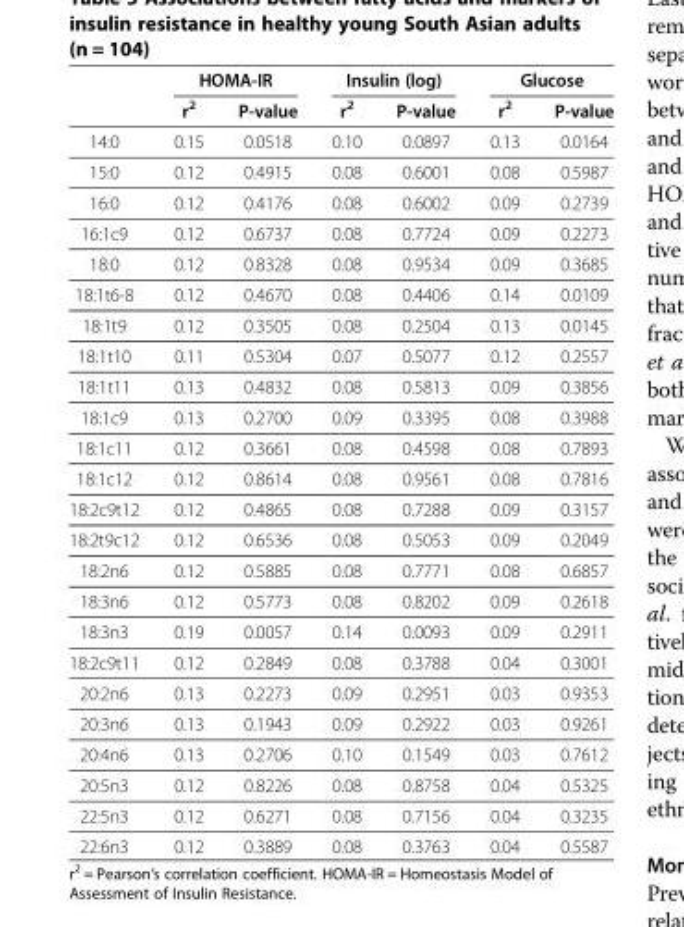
<table><thead><tr><td rowspan="2"></td><td colspan="2">HOMA-IR</td><td colspan="2">Insulin (log)</td><td colspan="2">Glucose</td></tr><tr><td>r<sup>2</sup></td><td>P-value</td><td>r<sup>2</sup></td><td>P-value</td><td>r<sup>2</sup></td><td>P-value</td></tr></thead><tbody><tr><td>14:0</td><td>0.15</td><td>0.0518</td><td>0.10</td><td>0.0897</td><td>0.13</td><td>0.0164</td></tr><tr><td>15:0</td><td>0.12</td><td>0.4915</td><td>0.08</td><td>0.6001</td><td>0.08</td><td>0.5987</td></tr><tr><td>16:0</td><td>0.12</td><td>0.4176</td><td>0.08</td><td>0.6002</td><td>0.09</td><td>0.2739</td></tr><tr><td>16:1c9</td><td>0.12</td><td>0.6737</td><td>0.08</td><td>0.7724</td><td>0.09</td><td>0.2273</td></tr><tr><td>18:0</td><td>0.12</td><td>0.8328</td><td>0.08</td><td>0.9534</td><td>0.09</td><td>0.3685</td></tr><tr><td>18:1t6-8</td><td>0.12</td><td>0.4670</td><td>0.08</td><td>0.4406</td><td>0.14</td><td>0.0109</td></tr><tr><td>18:1t9</td><td>0.12</td><td>0.3505</td><td>0.08</td><td>0.2504</td><td>0.13</td><td>0.0145</td></tr><tr><td>18:1t10</td><td>0.11</td><td>0.5304</td><td>0.07</td><td>0.5077</td><td>0.12</td><td>0.2557</td></tr><tr><td>18:1t11</td><td>0.13</td><td>0.4832</td><td>0.08</td><td>0.5813</td><td>0.09</td><td>0.3856</td></tr><tr><td>18:1c9</td><td>0.13</td><td>0.2700</td><td>0.09</td><td>0.3395</td><td>0.08</td><td>0.3988</td></tr><tr><td>18:1c11</td><td>0.12</td><td>0.3661</td><td>0.08</td><td>0.4598</td><td>0.08</td><td>0.7893</td></tr><tr><td>18:1c12</td><td>0.12</td><td>0.8614</td><td>0.08</td><td>0.9561</td><td>0.08</td><td>0.7816</td></tr><tr><td>18:2c9t12</td><td>0.12</td><td>0.4865</td><td>0.08</td><td>0.7288</td><td>0.09</td><td>0.3157</td></tr><tr><td>18:2t9c12</td><td>0.12</td><td>0.6536</td><td>0.08</td><td>0.5053</td><td>0.09</td><td>0.2049</td></tr><tr><td>18:2n6</td><td>0.12</td><td>0.5885</td><td>0.08</td><td>0.7771</td><td>0.08</td><td>0.6857</td></tr><tr><td>18:3n6</td><td>0.12</td><td>0.5773</td><td>0.08</td><td>0.8202</td><td>0.09</td><td>0.2618</td></tr><tr><td>18:3n3</td><td>0.19</td><td>0.0057</td><td>0.14</td><td>0.0093</td><td>0.09</td><td>0.2911</td></tr><tr><td>18:2c9t11</td><td>0.12</td><td>0.2849</td><td>0.08</td><td>0.3788</td><td>0.04</td><td>0.3001</td></tr><tr><td>20:2n6</td><td>0.13</td><td>0.2273</td><td>0.09</td><td>0.2951</td><td>0.03</td><td>0.9353</td></tr><tr><td>20:3n6</td><td>0.13</td><td>0.1943</td><td>0.09</td><td>0.2922</td><td>0.03</td><td>0.9261</td></tr><tr><td>20:4n6</td><td>0.13</td><td>0.2706</td><td>0.10</td><td>0.1549</td><td>0.03</td><td>0.7612</td></tr><tr><td>20:5n3</td><td>0.12</td><td>0.8226</td><td>0.08</td><td>0.8758</td><td>0.04</td><td>0.5325</td></tr><tr><td>22:5n3</td><td>0.12</td><td>0.6271</td><td>0.08</td><td>0.7156</td><td>0.04</td><td>0.3235</td></tr><tr><td>22:6n3</td><td>0.12</td><td>0.3889</td><td>0.08</td><td>0.3763</td><td>0.04</td><td>0.5587</td></tr></tbody></table>